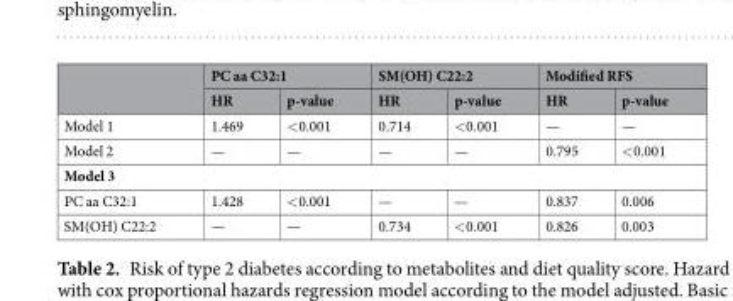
<table><thead><tr><td rowspan="2"></td><td colspan="2">PC aa C32:1</td><td colspan="2">SM(OH) C22:2</td><td colspan="2">Modified RFS</td></tr><tr><td>HR</td><td>p-value</td><td>HR</td><td>p-value</td><td>HR</td><td>p-value</td></tr></thead><tbody><tr><td>Model 1</td><td>1.469</td><td>&lt;0.001</td><td>0.714</td><td>&lt;0.001</td><td>—</td><td>—</td></tr><tr><td>Model 2</td><td>—</td><td>—</td><td>—</td><td>—</td><td>0.795</td><td>&lt;0.001</td></tr><tr><td colspan="7">Model 3</td></tr><tr><td>PC aa C32:1</td><td>1.428</td><td>&lt;0.001</td><td>—</td><td>—</td><td>0.837</td><td>0.006</td></tr><tr><td>SM(OH) C22:2</td><td>—</td><td>—</td><td>0.734</td><td>&lt;0.001</td><td>0.826</td><td>0.003</td></tr></tbody></table>